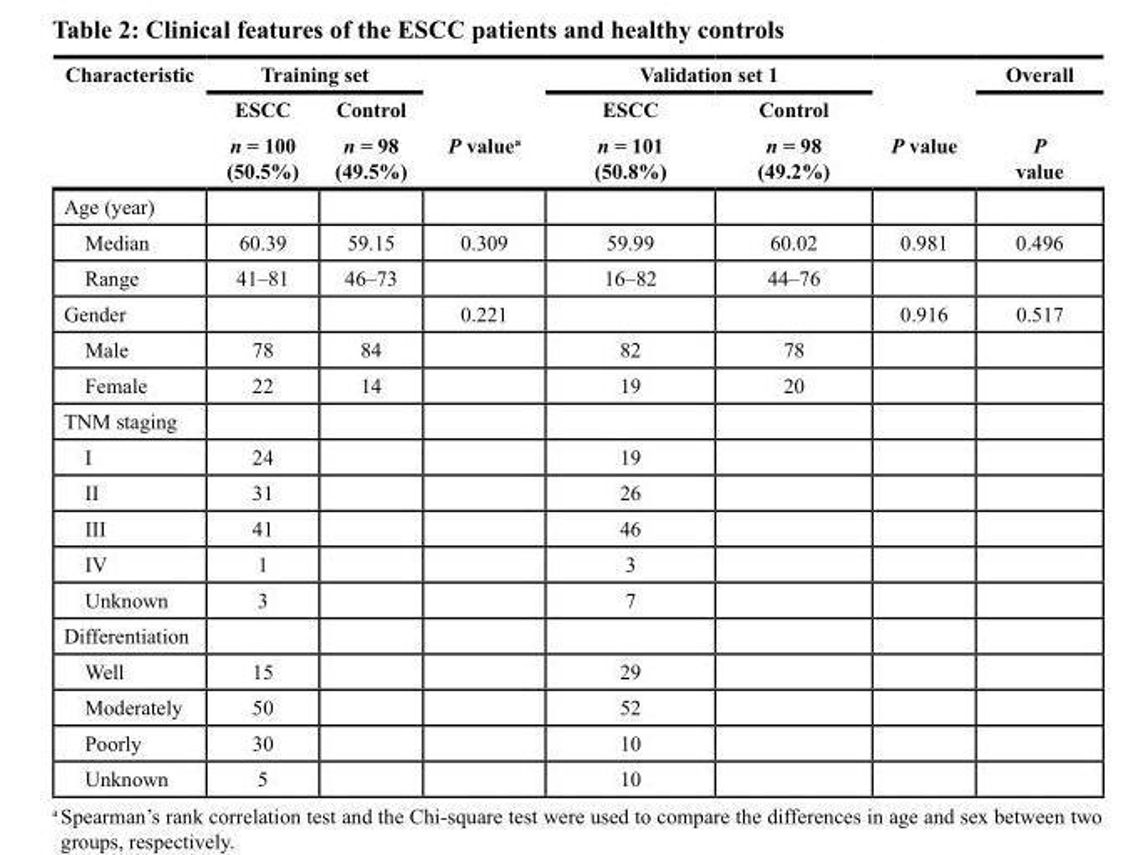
<table><thead><tr><td rowspan="3">characteristic</td><td colspan="2">training set</td><td rowspan="3">P value<sup>a</sup></td><td colspan="2">Validation set 1</td><td rowspan="3">P value</td><td rowspan="3">Overall P value</td></tr><tr><td rowspan="2">Escc n = 100 (50.5%)</td><td rowspan="2">control n = 98 (49.5%)</td><td rowspan="2">Escc n = 101 (50.8%)</td><td rowspan="2">control n = 98 (49.2%)</td></tr><tr></tr></thead><tbody><tr><td colspan="8">Age (year)</td></tr><tr><td>Median</td><td>60.39</td><td>59.15</td><td>0.309</td><td>59.99</td><td>60.02</td><td>0.981</td><td>0.496</td></tr><tr><td>Range</td><td>41–81</td><td>46–73</td><td></td><td>16–82</td><td>44–76</td><td></td><td></td></tr><tr><td>Gender</td><td></td><td></td><td>0.221</td><td></td><td></td><td>0.916</td><td>0.517</td></tr><tr><td>Male</td><td>78</td><td>84</td><td></td><td>82</td><td>78</td><td></td><td></td></tr><tr><td>Female</td><td>22</td><td>14</td><td></td><td>19</td><td>20</td><td></td><td></td></tr><tr><td colspan="8">TNM staging</td></tr><tr><td>I</td><td>24</td><td></td><td></td><td>19</td><td></td><td></td><td></td></tr><tr><td>II</td><td>31</td><td></td><td></td><td>26</td><td></td><td></td><td></td></tr><tr><td>III</td><td>41</td><td></td><td></td><td>46</td><td></td><td></td><td></td></tr><tr><td>IV</td><td>1</td><td></td><td></td><td>3</td><td></td><td></td><td></td></tr><tr><td>Unknown</td><td>3</td><td></td><td></td><td>7</td><td></td><td></td><td></td></tr><tr><td colspan="8">Differentiation</td></tr><tr><td>Well</td><td>15</td><td></td><td></td><td>29</td><td></td><td></td><td></td></tr><tr><td>Moderately</td><td>50</td><td></td><td></td><td>52</td><td></td><td></td><td></td></tr><tr><td>Poorly</td><td>30</td><td></td><td></td><td>10</td><td></td><td></td><td></td></tr><tr><td>Unknown</td><td>5</td><td></td><td></td><td>10</td><td></td><td></td><td></td></tr></tbody></table>